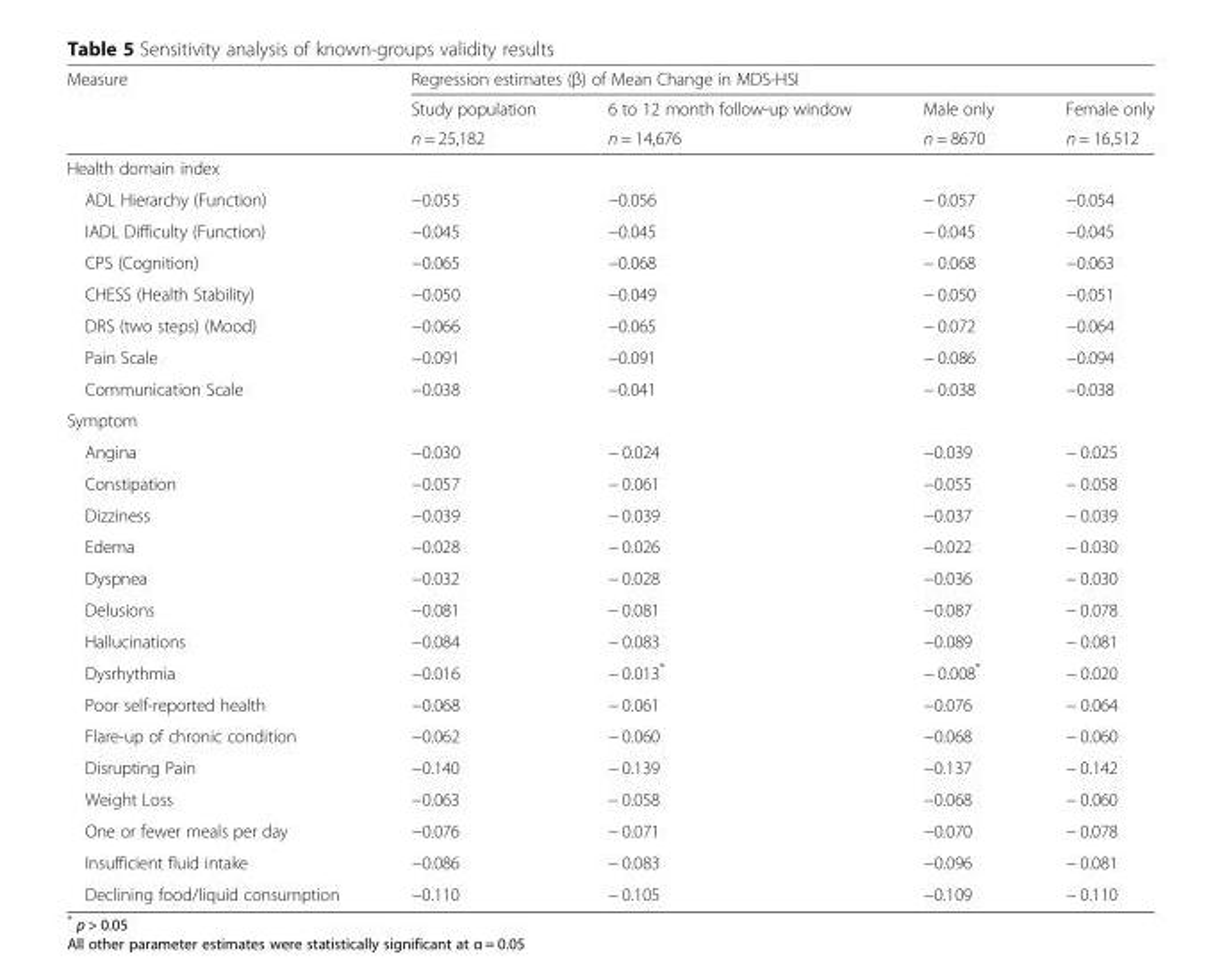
<table><thead><tr><td rowspan="3">Measure</td><td colspan="4">Regression estimates (β) of Mean Change in MDS-HSI</td></tr><tr><td rowspan="2">Study population n = 25,182</td><td rowspan="2">6 to 12 month follow-up window n = 14,676</td><td rowspan="2">Male only n = 8670</td><td rowspan="2">Female only n = 16,512</td></tr><tr></tr></thead><tbody><tr><td colspan="5">Health domain index</td></tr><tr><td>ADL Hierarchy (Function)</td><td>−0.055</td><td>−0.056</td><td>− 0.057</td><td>−0.054</td></tr><tr><td>IADL Difficulty (Function)</td><td>−0.045</td><td>−0.045</td><td>− 0.045</td><td>−0.045</td></tr><tr><td>CPS (Cognition)</td><td>−0.065</td><td>−0.068</td><td>− 0.068</td><td>−0.063</td></tr><tr><td>CHESS (Health Stability)</td><td>−0.050</td><td>−0.049</td><td>− 0.050</td><td>−0.051</td></tr><tr><td>DRS (two steps) (Mood)</td><td>−0.066</td><td>−0.065</td><td>− 0.072</td><td>−0.064</td></tr><tr><td>Pain Scale</td><td>−0.091</td><td>−0.091</td><td>− 0.086</td><td>−0.094</td></tr><tr><td>Communication Scale</td><td>−0.038</td><td>−0.041</td><td>− 0.038</td><td>−0.038</td></tr><tr><td colspan="5">Symptom</td></tr><tr><td>Angina</td><td>−0.030</td><td>− 0.024</td><td>−0.039</td><td>− 0.025</td></tr><tr><td>Constipation</td><td>−0.057</td><td>− 0.061</td><td>−0.055</td><td>− 0.058</td></tr><tr><td>Dizziness</td><td>−0.039</td><td>− 0.039</td><td>−0.037</td><td>− 0.039</td></tr><tr><td>Edema</td><td>−0.028</td><td>− 0.026</td><td>−0.022</td><td>− 0.030</td></tr><tr><td>Dyspnea</td><td>−0.032</td><td>− 0.028</td><td>−0.036</td><td>− 0.030</td></tr><tr><td>Delusions</td><td>−0.081</td><td>− 0.081</td><td>−0.087</td><td>− 0.078</td></tr><tr><td>Hallucinations</td><td>−0.084</td><td>− 0.083</td><td>−0.089</td><td>− 0.081</td></tr><tr><td>Dysrhythmia</td><td>−0.016</td><td>− 0.013*</td><td>− 0.008*</td><td>− 0.020</td></tr><tr><td>Poor self-reported health</td><td>−0.068</td><td>− 0.061</td><td>−0.076</td><td>− 0.064</td></tr><tr><td>Flare-up of chronic condition</td><td>−0.062</td><td>− 0.060</td><td>−0.068</td><td>− 0.060</td></tr><tr><td>Disrupting Pain</td><td>−0.140</td><td>− 0.139</td><td>−0.137</td><td>− 0.142</td></tr><tr><td>Weight Loss</td><td>−0.063</td><td>− 0.058</td><td>−0.068</td><td>− 0.060</td></tr><tr><td>One or fewer meals per day</td><td>−0.076</td><td>− 0.071</td><td>−0.070</td><td>− 0.078</td></tr><tr><td>Insufficient fluid intake</td><td>−0.086</td><td>− 0.083</td><td>−0.096</td><td>− 0.081</td></tr><tr><td>Declining food/liquid consumption</td><td>−0.110</td><td>− 0.105</td><td>−0.109</td><td>− 0.110</td></tr></tbody></table>